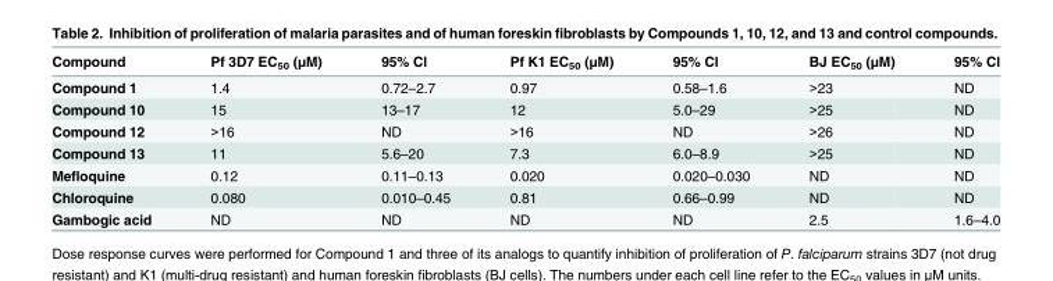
<table><thead><tr><td>Compound</td><td>Pf 3D7 EC<sub>50</sub> (μM)</td><td>95% Cl</td><td>Pf K1 EC<sub>50</sub> (μM)</td><td>95% Cl</td><td>BJ EC<sub>50</sub> (μM)</td><td>95% Cl</td></tr></thead><tbody><tr><td>Compound 1</td><td>1.4</td><td>0.72–2.7</td><td>0.97</td><td>0.58–1.6</td><td>&gt;23</td><td>ND</td></tr><tr><td>Compound 10</td><td>15</td><td>13–17</td><td>12</td><td>5.0–29</td><td>&gt;25</td><td>ND</td></tr><tr><td>Compound 12</td><td>&gt;16</td><td>ND</td><td>&gt;16</td><td>ND</td><td>&gt;26</td><td>ND</td></tr><tr><td>Compound 13</td><td>11</td><td>5.6–20</td><td>7.3</td><td>6.0–8.9</td><td>&gt;25</td><td>ND</td></tr><tr><td>Mefloquine</td><td>0.12</td><td>0.11–0.13</td><td>0.020</td><td>0.020–0.030</td><td>ND</td><td>ND</td></tr><tr><td>Chloroquine</td><td>0.080</td><td>0.010–0.45</td><td>0.81</td><td>0.66–0.99</td><td>ND</td><td>ND</td></tr><tr><td>Gambogic acid</td><td>ND</td><td>ND</td><td>ND</td><td>ND</td><td>2.5</td><td>1.6–4.0</td></tr></tbody></table>